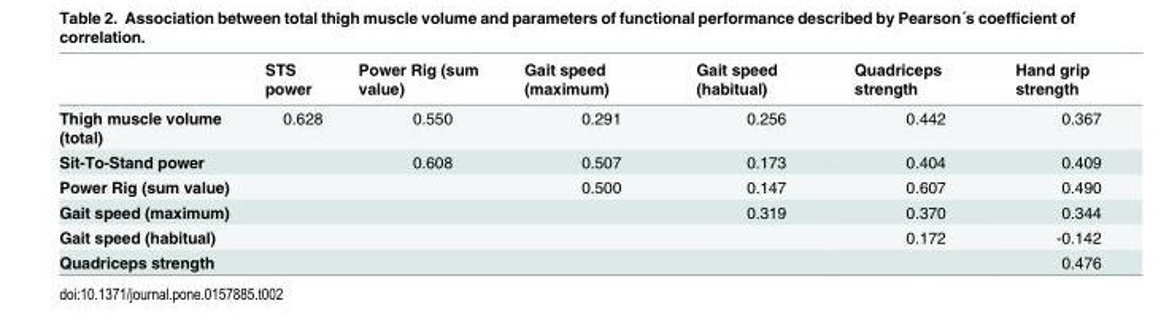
<table><thead><tr><td></td><td>STS power</td><td>Power Rig (sum value)</td><td>Gait speed (maximum)</td><td>Gait speed (habitual)</td><td>Quadriceps strength</td><td>Hand grip strength</td></tr></thead><tbody><tr><td>Thigh muscle volume (total)</td><td>0.628</td><td>0.550</td><td>0.291</td><td>0.256</td><td>0.442</td><td>0.367</td></tr><tr><td>Sit-To-Stand power</td><td></td><td>0.608</td><td>0.507</td><td>0.173</td><td>0.404</td><td>0.409</td></tr><tr><td>Power Rig (sum value)</td><td></td><td></td><td>0.500</td><td>0.147</td><td>0.607</td><td>0.490</td></tr><tr><td>Gait speed (maximum)</td><td></td><td></td><td></td><td>0.319</td><td>0.370</td><td>0.344</td></tr><tr><td>Gait speed (habitual)</td><td></td><td></td><td></td><td></td><td>0.172</td><td>-0.142</td></tr><tr><td>Quadriceps strength</td><td></td><td></td><td></td><td></td><td></td><td>0.476</td></tr></tbody></table>